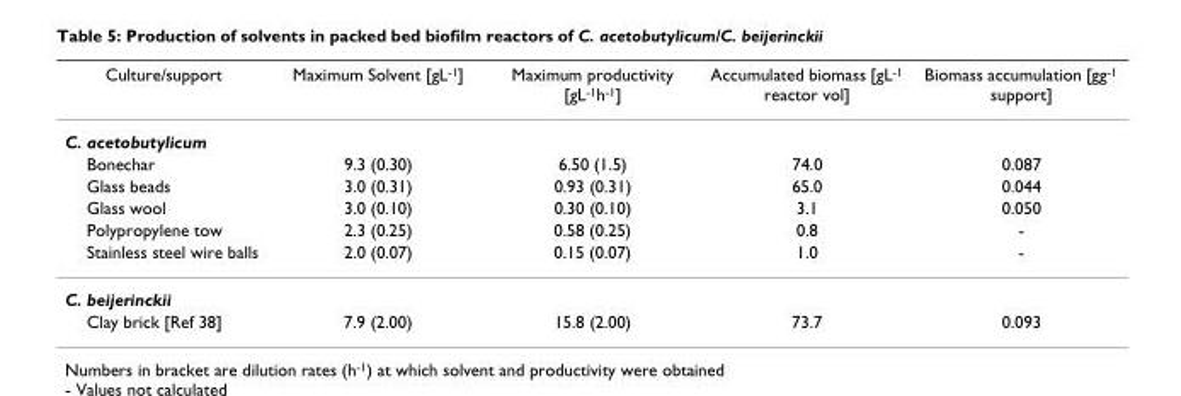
<table><thead><tr><td>Culture/support</td><td>Maximum Solvent [gL<sup>-1</sup>]</td><td>Maximum productivity [gL<sup>-1</sup>h<sup>-1</sup>]</td><td>Accumulated biomass [gL<sup>-1</sup> reactor vol]</td><td>Biomass accumulation [gg<sup>-1</sup> support]</td></tr></thead><tbody><tr><td colspan="5">C. acetobutylicum</td></tr><tr><td>Bonechar</td><td>9.3 (0.30)</td><td>6.50 (1.5)</td><td>74.0</td><td>0.087</td></tr><tr><td>Glass beads</td><td>3.0 (0.31)</td><td>0.93 (0.31)</td><td>65.0</td><td>0.044</td></tr><tr><td>Glass wool</td><td>3.0 (0.10)</td><td>0.30 (0.10)</td><td>3.1</td><td>0.050</td></tr><tr><td>Polypropylene tow</td><td>2.3 (0.25)</td><td>0.58 (0.25)</td><td>0.8</td><td>-</td></tr><tr><td>Stainless steel wire balls</td><td>2.0 (0.07)</td><td>0.15 (0.07)</td><td>1.0</td><td>-</td></tr><tr><td colspan="5">C. beijerinckii</td></tr><tr><td>Clay brick [Ref 38]</td><td>7.9 (2.00)</td><td>15.8 (2.00)</td><td>73.7</td><td>0.093</td></tr></tbody></table>